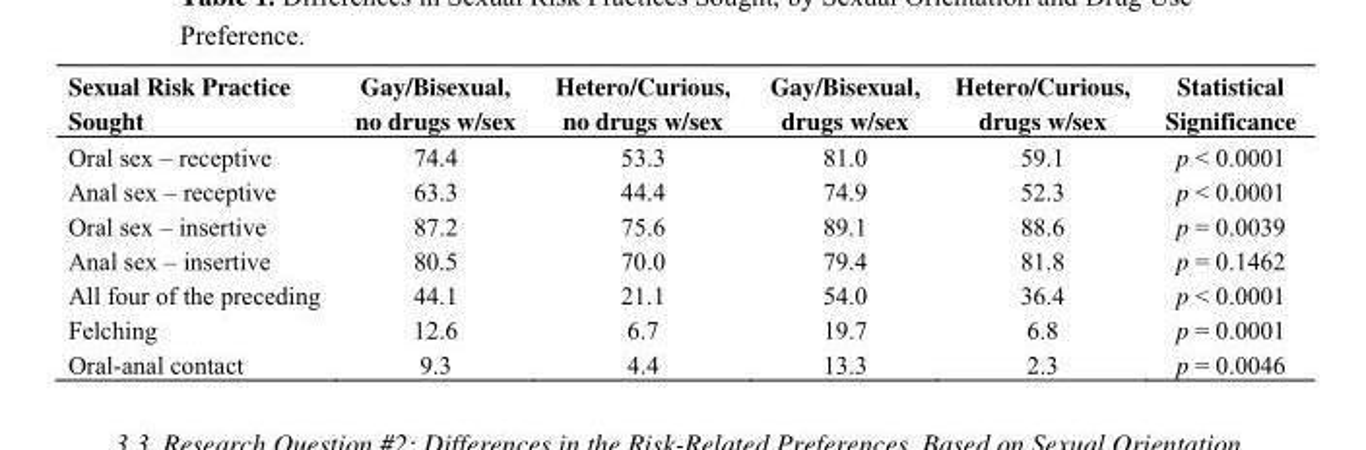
<table><thead><tr><td>Sexual Risk Practice Sought</td><td>Gay/Bisexual, no drugs w/sex</td><td>Hetero/Curious, no drugs w/sex</td><td>Gay/Bisexual, drugs w/sex</td><td>Hetero/Curious, drugs w/sex</td><td>Statistical Significance</td></tr></thead><tbody><tr><td>Oral sex – receptive</td><td>74.4</td><td>53.3</td><td>81.0</td><td>59.1</td><td>p &lt; 0.0001</td></tr><tr><td>Anal sex – receptive</td><td>63.3</td><td>44.4</td><td>74.9</td><td>52.3</td><td>p &lt; 0.0001</td></tr><tr><td>Oral sex – insertive</td><td>87.2</td><td>75.6</td><td>89.1</td><td>88.6</td><td>p = 0.0039</td></tr><tr><td>Anal sex – insertive</td><td>80.5</td><td>70.0</td><td>79.4</td><td>81.8</td><td>p = 0.1462</td></tr><tr><td>All four of the preceding</td><td>44.1</td><td>21.1</td><td>54.0</td><td>36.4</td><td>p &lt; 0.0001</td></tr><tr><td>Felching</td><td>12.6</td><td>6.7</td><td>19.7</td><td>6.8</td><td>p = 0.0001</td></tr><tr><td>Oral-anal contact</td><td>9.3</td><td>4.4</td><td>13.3</td><td>2.3</td><td>p = 0.0046</td></tr></tbody></table>